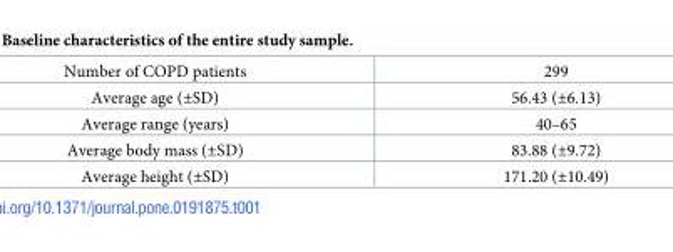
<table><tbody><tr><td>Number of COPD patients</td><td>299</td></tr><tr><td>Average age (±SD)</td><td>56.43 (±6.13)</td></tr><tr><td>Average range (years)</td><td>40–65</td></tr><tr><td>Average body mass (±SD)</td><td>83.88 (±9.72)</td></tr><tr><td>Average height (±SD)</td><td>171.20 (±10.49)</td></tr></tbody></table>